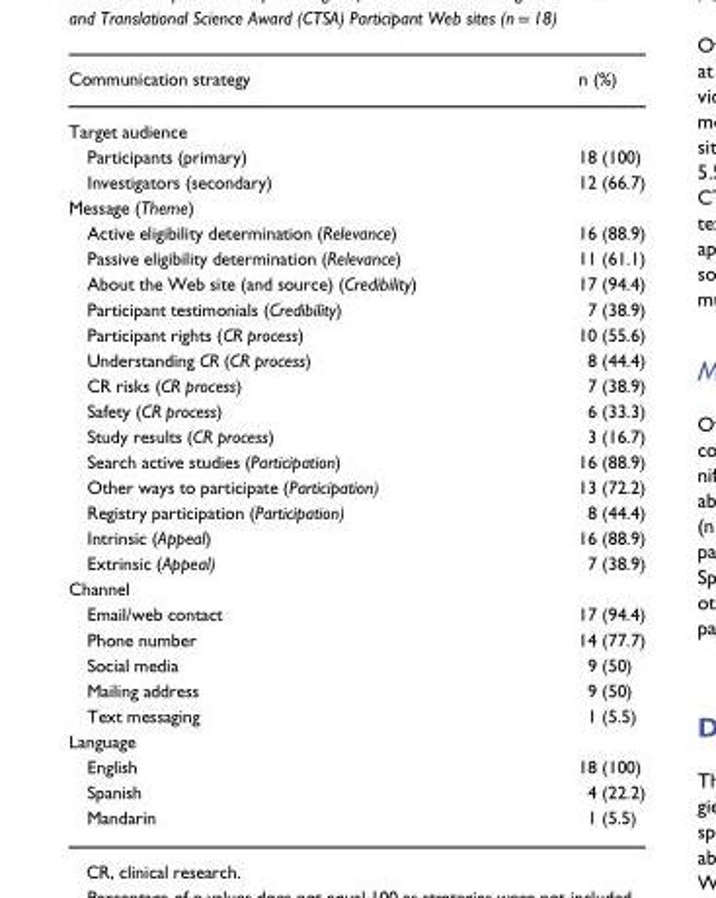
<table><thead><tr><td>Communication strategy</td><td>n (%)</td></tr></thead><tbody><tr><td colspan="2">Target audience</td></tr><tr><td>Participants (primary)</td><td>18 (100)</td></tr><tr><td>Investigators (secondary)</td><td>12 (66.7)</td></tr><tr><td colspan="2">Message (Theme)</td></tr><tr><td>Active eligibility determination (Relevance)</td><td>16 (88.9)</td></tr><tr><td>Passive eligibility determination (Relevance)</td><td>11 (61.1)</td></tr><tr><td>About the Web site (and source) (Credibility)</td><td>17 (94.4)</td></tr><tr><td>Participant testimonials (Credibility)</td><td>7 (38.9)</td></tr><tr><td>Participant rights (CR process)</td><td>10 (55.6)</td></tr><tr><td>Understanding CR (CR process)</td><td>8 (44.4)</td></tr><tr><td>CR risks (CR process)</td><td>7 (38.9)</td></tr><tr><td>Safety (CR process)</td><td>6 (33.3)</td></tr><tr><td>Study results (CR process)</td><td>3 (16.7)</td></tr><tr><td>Search active studies (Participation)</td><td>16 (88.9)</td></tr><tr><td>Other ways to participate (Participation)</td><td>13 (72.2)</td></tr><tr><td>Registry participation (Participation)</td><td>8 (44.4)</td></tr><tr><td>Intrinsic (Appeal)</td><td>16 (88.9)</td></tr><tr><td>Extrinsic (Appeal)</td><td>7 (38.9)</td></tr><tr><td colspan="2">Channel</td></tr><tr><td>Email/web contact</td><td>17 (94.4)</td></tr><tr><td>Phone number</td><td>14 (77.7)</td></tr><tr><td>Social media</td><td>9 (50)</td></tr><tr><td>Mailing address</td><td>9 (50)</td></tr><tr><td>Text messaging</td><td>1 (5.5)</td></tr><tr><td colspan="2">Language</td></tr><tr><td>English</td><td>18 (100)</td></tr><tr><td>Spanish</td><td>4 (22.2)</td></tr><tr><td>Mandarin</td><td>1 (5.5)</td></tr></tbody></table>